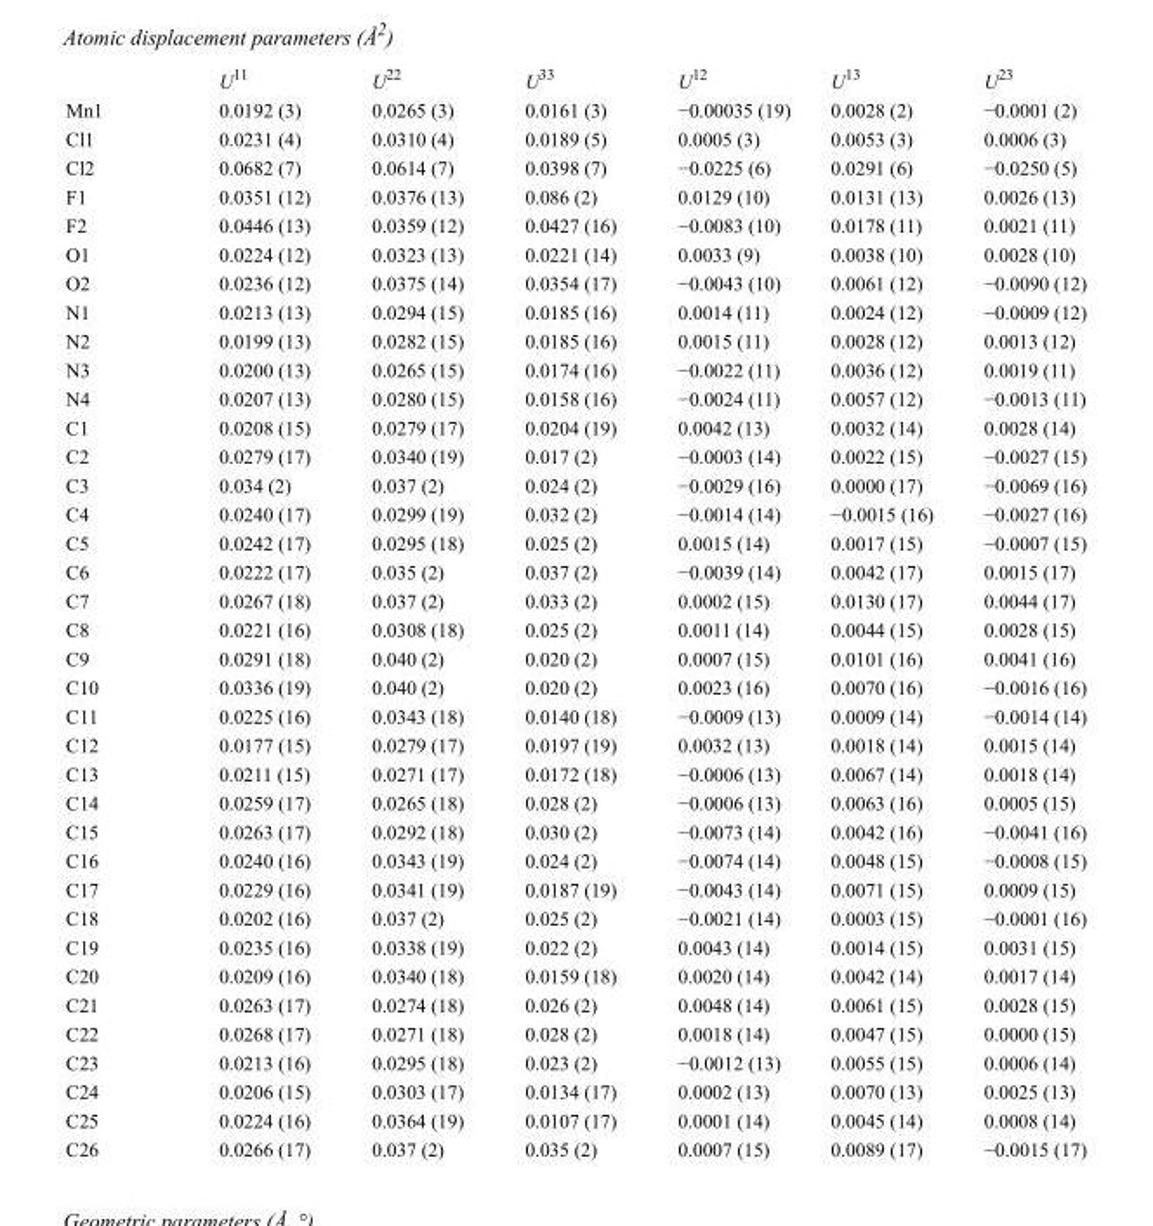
<table><thead><tr><td></td><td>U<sup>11</sup></td><td>U<sup>22</sup></td><td>U<sup>33</sup></td><td>U<sup>12</sup></td><td>U<sup>13</sup></td><td>U<sup>23</sup></td></tr></thead><tbody><tr><td>Mn1</td><td>0.0192 (3)</td><td>0.0265 (3)</td><td>0.0161 (3)</td><td>−0.00035 (19)</td><td>0.0028 (2)</td><td>−0.0001 (2)</td></tr><tr><td>Cl1</td><td>0.0231 (4)</td><td>0.0310 (4)</td><td>0.0189 (5)</td><td>0.0005 (3)</td><td>0.0053 (3)</td><td>0.0006 (3)</td></tr><tr><td>Cl2</td><td>0.0682 (7)</td><td>0.0614 (7)</td><td>0.0398 (7)</td><td>−0.0225 (6)</td><td>0.0291 (6)</td><td>−0.0250 (5)</td></tr><tr><td>F1</td><td>0.0351 (12)</td><td>0.0376 (13)</td><td>0.086 (2)</td><td>0.0129 (10)</td><td>0.0131 (13)</td><td>0.0026 (13)</td></tr><tr><td>F2</td><td>0.0446 (13)</td><td>0.0359 (12)</td><td>0.0427 (16)</td><td>−0.0083 (10)</td><td>0.0178 (11)</td><td>0.0021 (11)</td></tr><tr><td>O1</td><td>0.0224 (12)</td><td>0.0323 (13)</td><td>0.0221 (14)</td><td>0.0033 (9)</td><td>0.0038 (10)</td><td>0.0028 (10)</td></tr><tr><td>O2</td><td>0.0236 (12)</td><td>0.0375 (14)</td><td>0.0354 (17)</td><td>−0.0043 (10)</td><td>0.0061 (12)</td><td>−0.0090 (12)</td></tr><tr><td>N1</td><td>0.0213 (13)</td><td>0.0294 (15)</td><td>0.0185 (16)</td><td>0.0014 (11)</td><td>0.0024 (12)</td><td>−0.0009 (12)</td></tr><tr><td>N2</td><td>0.0199 (13)</td><td>0.0282 (15)</td><td>0.0185 (16)</td><td>0.0015 (11)</td><td>0.0028 (12)</td><td>0.0013 (12)</td></tr><tr><td>N3</td><td>0.0200 (13)</td><td>0.0265 (15)</td><td>0.0174 (16)</td><td>−0.0022 (11)</td><td>0.0036 (12)</td><td>0.0019 (11)</td></tr><tr><td>N4</td><td>0.0207 (13)</td><td>0.0280 (15)</td><td>0.0158 (16)</td><td>−0.0024 (11)</td><td>0.0057 (12)</td><td>−0.0013 (11)</td></tr><tr><td>C1</td><td>0.0208 (15)</td><td>0.0279 (17)</td><td>0.0204 (19)</td><td>0.0042 (13)</td><td>0.0032 (14)</td><td>0.0028 (14)</td></tr><tr><td>C2</td><td>0.0279 (17)</td><td>0.0340 (19)</td><td>0.017 (2)</td><td>−0.0003 (14)</td><td>0.0022 (15)</td><td>−0.0027 (15)</td></tr><tr><td>C3</td><td>0.034 (2)</td><td>0.037 (2)</td><td>0.024 (2)</td><td>−0.0029 (16)</td><td>0.0000 (17)</td><td>−0.0069 (16)</td></tr><tr><td>C4</td><td>0.0240 (17)</td><td>0.0299 (19)</td><td>0.032 (2)</td><td>−0.0014 (14)</td><td>−0.0015 (16)</td><td>−0.0027 (16)</td></tr><tr><td>C5</td><td>0.0242 (17)</td><td>0.0295 (18)</td><td>0.025 (2)</td><td>0.0015 (14)</td><td>0.0017 (15)</td><td>−0.0007 (15)</td></tr><tr><td>C6</td><td>0.0222 (17)</td><td>0.035 (2)</td><td>0.037 (2)</td><td>−0.0039 (14)</td><td>0.0042 (17)</td><td>0.0015 (17)</td></tr><tr><td>C7</td><td>0.0267 (18)</td><td>0.037 (2)</td><td>0.033 (2)</td><td>0.0002 (15)</td><td>0.0130 (17)</td><td>0.0044 (17)</td></tr><tr><td>C8</td><td>0.0221 (16)</td><td>0.0308 (18)</td><td>0.025 (2)</td><td>0.0011 (14)</td><td>0.0044 (15)</td><td>0.0028 (15)</td></tr><tr><td>C9</td><td>0.0291 (18)</td><td>0.040 (2)</td><td>0.020 (2)</td><td>0.0007 (15)</td><td>0.0101 (16)</td><td>0.0041 (16)</td></tr><tr><td>C10</td><td>0.0336 (19)</td><td>0.040 (2)</td><td>0.020 (2)</td><td>0.0023 (16)</td><td>0.0070 (16)</td><td>−0.0016 (16)</td></tr><tr><td>C11</td><td>0.0225 (16)</td><td>0.0343 (18)</td><td>0.0140 (18)</td><td>−0.0009 (13)</td><td>0.0009 (14)</td><td>−0.0014 (14)</td></tr><tr><td>C12</td><td>0.0177 (15)</td><td>0.0279 (17)</td><td>0.0197 (19)</td><td>0.0032 (13)</td><td>0.0018 (14)</td><td>0.0015 (14)</td></tr><tr><td>C13</td><td>0.0211 (15)</td><td>0.0271 (17)</td><td>0.0172 (18)</td><td>−0.0006 (13)</td><td>0.0067 (14)</td><td>0.0018 (14)</td></tr><tr><td>C14</td><td>0.0259 (17)</td><td>0.0265 (18)</td><td>0.028 (2)</td><td>−0.0006 (13)</td><td>0.0063 (16)</td><td>0.0005 (15)</td></tr><tr><td>C15</td><td>0.0263 (17)</td><td>0.0292 (18)</td><td>0.030 (2)</td><td>−0.0073 (14)</td><td>0.0042 (16)</td><td>−0.0041 (16)</td></tr><tr><td>C16</td><td>0.0240 (16)</td><td>0.0343 (19)</td><td>0.024 (2)</td><td>−0.0074 (14)</td><td>0.0048 (15)</td><td>−0.0008 (15)</td></tr><tr><td>C17</td><td>0.0229 (16)</td><td>0.0341 (19)</td><td>0.0187 (19)</td><td>−0.0043 (14)</td><td>0.0071 (15)</td><td>0.0009 (15)</td></tr><tr><td>C18</td><td>0.0202 (16)</td><td>0.037 (2)</td><td>0.025 (2)</td><td>−0.0021 (14)</td><td>0.0003 (15)</td><td>−0.0001 (16)</td></tr><tr><td>C19</td><td>0.0235 (16)</td><td>0.0338 (19)</td><td>0.022 (2)</td><td>0.0043 (14)</td><td>0.0014 (15)</td><td>0.0031 (15)</td></tr><tr><td>C20</td><td>0.0209 (16)</td><td>0.0340 (18)</td><td>0.0159 (18)</td><td>0.0020 (14)</td><td>0.0042 (14)</td><td>0.0017 (14)</td></tr><tr><td>C21</td><td>0.0263 (17)</td><td>0.0274 (18)</td><td>0.026 (2)</td><td>0.0048 (14)</td><td>0.0061 (15)</td><td>0.0028 (15)</td></tr><tr><td>C22</td><td>0.0268 (17)</td><td>0.0271 (18)</td><td>0.028 (2)</td><td>0.0018 (14)</td><td>0.0047 (15)</td><td>0.0000 (15)</td></tr><tr><td>C23</td><td>0.0213 (16)</td><td>0.0295 (18)</td><td>0.023 (2)</td><td>−0.0012 (13)</td><td>0.0055 (15)</td><td>0.0006 (14)</td></tr><tr><td>C24</td><td>0.0206 (15)</td><td>0.0303 (17)</td><td>0.0134 (17)</td><td>0.0002 (13)</td><td>0.0070 (13)</td><td>0.0025 (13)</td></tr><tr><td>C25</td><td>0.0224 (16)</td><td>0.0364 (19)</td><td>0.0107 (17)</td><td>0.0001 (14)</td><td>0.0045 (14)</td><td>0.0008 (14)</td></tr><tr><td>C26</td><td>0.0266 (17)</td><td>0.037 (2)</td><td>0.035 (2)</td><td>0.0007 (15)</td><td>0.0089 (17)</td><td>−0.0015 (17)</td></tr></tbody></table>